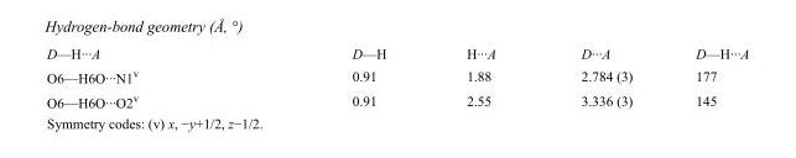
<table><tbody><tr><td>D—H···A</td><td>D—H</td><td>H···A</td><td>D···A</td><td>D—H···A</td></tr><tr><td>O6—H6O···N1<sup>v</sup></td><td>0.91</td><td>1.88</td><td>2.784 (3)</td><td>177</td></tr><tr><td>O6—H6O···O2<sup>v</sup></td><td>0.91</td><td>2.55</td><td>3.336 (3)</td><td>145</td></tr></tbody></table>